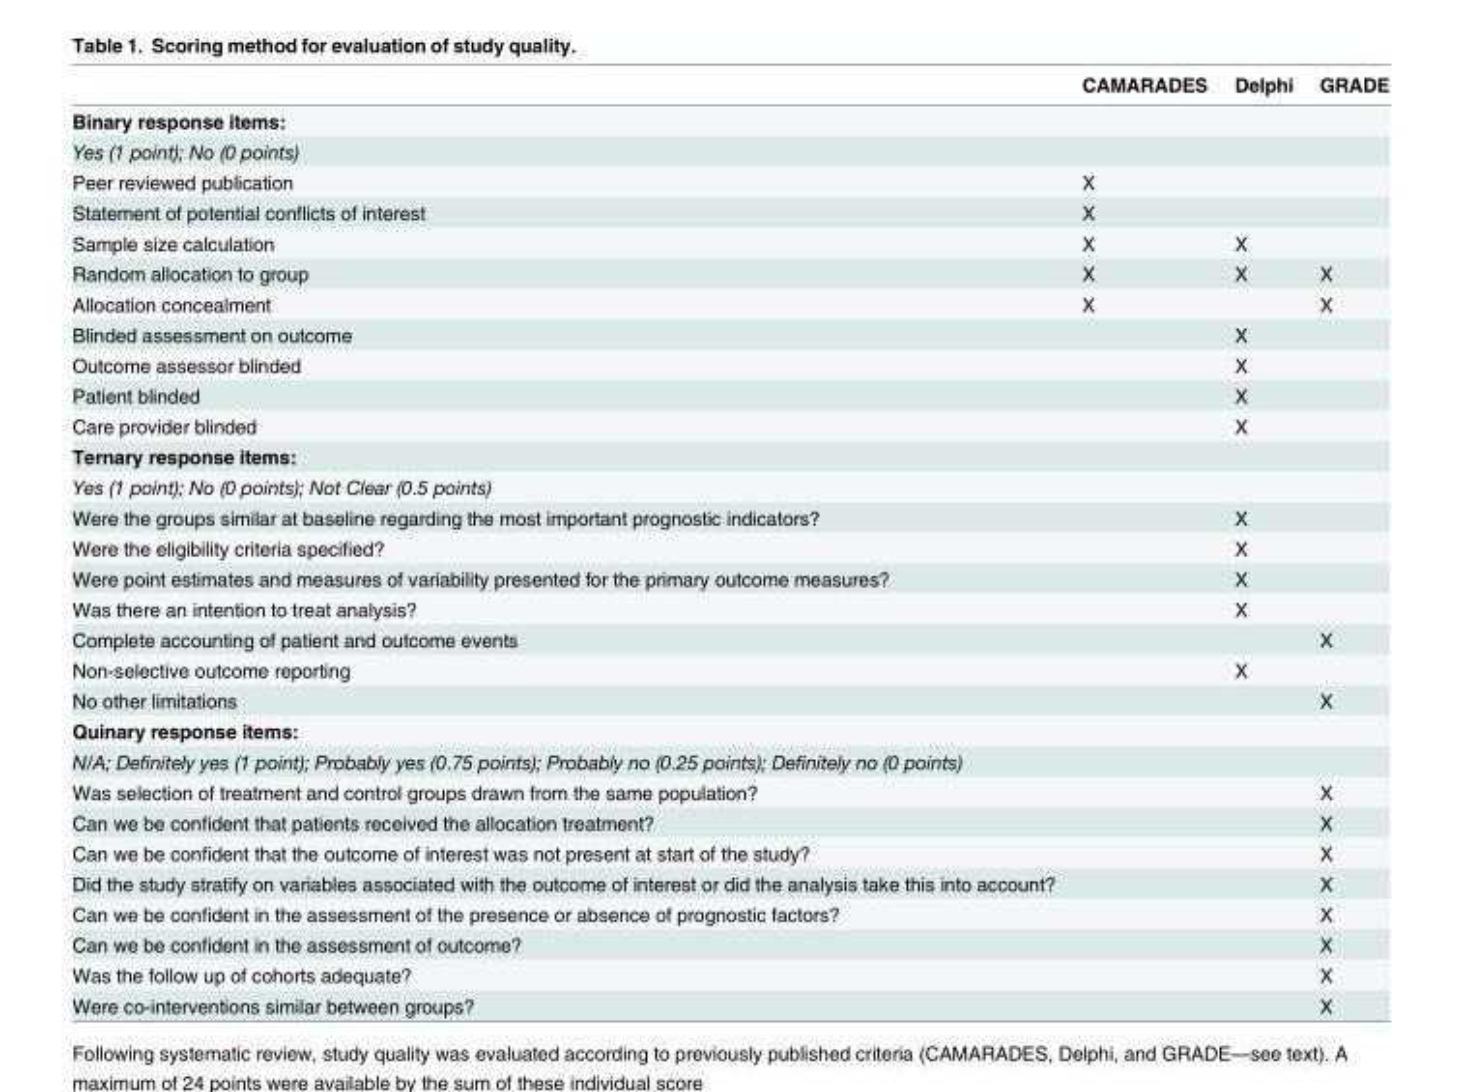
<table><thead><tr><td></td><td>CAMARADES</td><td>Delphi</td><td>GRADE</td></tr></thead><tbody><tr><td colspan="4">Binary response items:</td></tr><tr><td colspan="4">Yes (1 point); No (0 points)</td></tr><tr><td>Peer reviewed publication</td><td>X</td><td></td><td></td></tr><tr><td>Statement of potential conflicts of interest</td><td>X</td><td></td><td></td></tr><tr><td>Sample size calculation</td><td>X</td><td>X</td><td></td></tr><tr><td>Random allocation to group</td><td>X</td><td>X</td><td>X</td></tr><tr><td>Allocation concealment</td><td>X</td><td></td><td>X</td></tr><tr><td>Blinded assessment on outcome</td><td></td><td>X</td><td></td></tr><tr><td>Outcome assessor blinded</td><td></td><td>X</td><td></td></tr><tr><td>Patient blinded</td><td></td><td>X</td><td></td></tr><tr><td>Care provider blinded</td><td></td><td>X</td><td></td></tr><tr><td colspan="4">Ternary response items:</td></tr><tr><td colspan="4">Yes (1 point); No (0 points); Not Clear (0.5 points)</td></tr><tr><td>Were the groups similar at baseline regarding the most important prognostic indicators?</td><td></td><td>X</td><td></td></tr><tr><td>Were the eligibility criteria specified?</td><td></td><td>X</td><td></td></tr><tr><td>Were point estimates and measures of variability presented for the primary outcome measures?</td><td></td><td>X</td><td></td></tr><tr><td>Was there an intention to treat analysis?</td><td></td><td>X</td><td></td></tr><tr><td>Complete accounting of patient and outcome events</td><td></td><td></td><td>X</td></tr><tr><td>Non-selective outcome reporting</td><td></td><td>X</td><td></td></tr><tr><td>No other limitations</td><td></td><td></td><td>X</td></tr><tr><td colspan="4">Quinary response items:</td></tr><tr><td colspan="4">N/A; Definitely yes (1 point); Probably yes (0.75 points); Probably no (0.25 points); Definitely no (0 points)</td></tr><tr><td>Was selection of treatment and control groups drawn from the same population?</td><td></td><td></td><td>X</td></tr><tr><td>Can we be confident that patients received the allocation treatment?</td><td></td><td></td><td>X</td></tr><tr><td>Can we be confident that the outcome of interest was not present at start of the study?</td><td></td><td></td><td>X</td></tr><tr><td>Did the study stratify on variables associated with the outcome of interest or did the analysis take this into account?</td><td></td><td></td><td>X</td></tr><tr><td>Can we be confident in the assessment of the presence or absence of prognostic factors?</td><td></td><td></td><td>X</td></tr><tr><td>Can we be confident in the assessment of outcome?</td><td></td><td></td><td>X</td></tr><tr><td>Was the follow up of cohorts adequate?</td><td></td><td></td><td>X</td></tr><tr><td>Were co-interventions similar between groups?</td><td></td><td></td><td>X</td></tr></tbody></table>